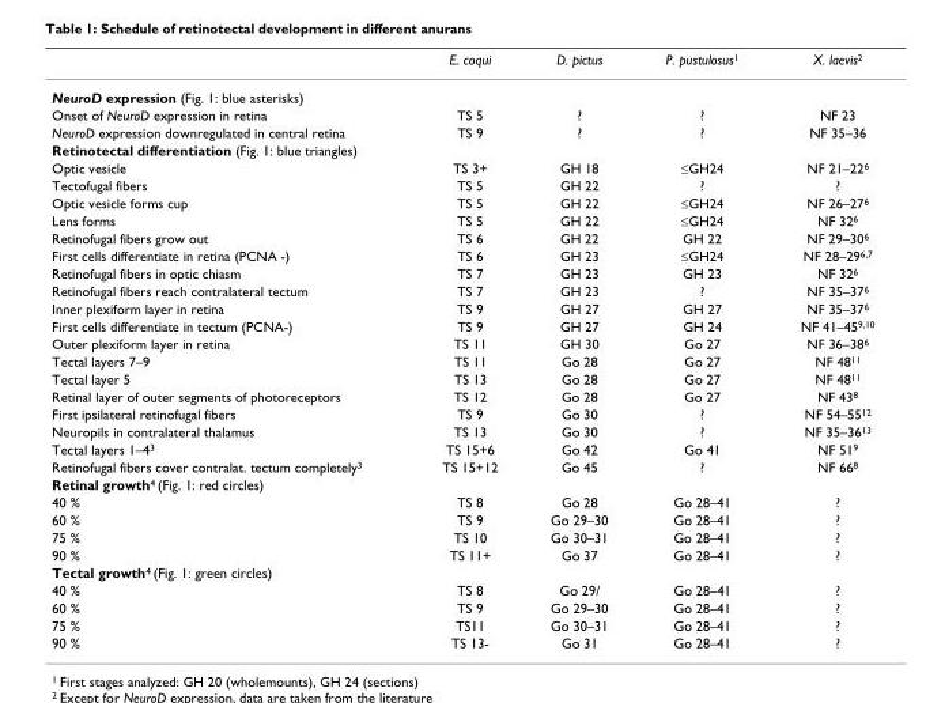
<table><thead><tr><td></td><td>E. coqui</td><td>D. pictus</td><td>P. pustulosus<sup>1</sup></td><td>X. laevis<sup>2</sup></td></tr></thead><tbody><tr><td colspan="5">NeuroD expression (Fig. 1: blue asterisks)</td></tr><tr><td>Onset of NeuroD expression in retina</td><td>TS 5</td><td>?</td><td>?</td><td>NF 23</td></tr><tr><td>NeuroD expression downregulated in central retina</td><td>TS 9</td><td>?</td><td>?</td><td>NF 35–36</td></tr><tr><td colspan="5">Retinotectal differentiation (Fig. 1: blue triangles)</td></tr><tr><td>Optic vesicle</td><td>TS 3+</td><td>GH 18</td><td>≤GH24</td><td>NF 21–22<sup>6</sup></td></tr><tr><td>Tectofugal fibers</td><td>TS 5</td><td>GH 22</td><td>?</td><td>?</td></tr><tr><td>Optic vesicle forms cup</td><td>TS 5</td><td>GH 22</td><td>≤GH24</td><td>NF 26–27<sup>6</sup></td></tr><tr><td>Lens forms</td><td>TS 5</td><td>GH 22</td><td>≤GH24</td><td>NF 32<sup>6</sup></td></tr><tr><td>Retinofugal fibers grow out</td><td>TS 6</td><td>GH 22</td><td>GH 22</td><td>NF 29–30<sup>6</sup></td></tr><tr><td>First cells differentiate in retina (PCNA -)</td><td>TS 6</td><td>GH 23</td><td>≤GH24</td><td>NF 28–29<sup>6,7</sup></td></tr><tr><td>Retinofugal fibers in optic chiasm</td><td>TS 7</td><td>GH 23</td><td>GH 23</td><td>NF 32<sup>6</sup></td></tr><tr><td>Retinofugal fibers reach contralateral tectum</td><td>TS 7</td><td>GH 23</td><td>?</td><td>NF 35–37<sup>6</sup></td></tr><tr><td>Inner plexiform layer in retina</td><td>TS 9</td><td>GH 27</td><td>GH 27</td><td>NF 35–37<sup>6</sup></td></tr><tr><td>First cells differentiate in tectum (PCNA-)</td><td>TS 9</td><td>GH 27</td><td>GH 24</td><td>NF 41–45<sup>9,10</sup></td></tr><tr><td>Outer plexiform layer in retina</td><td>TS 11</td><td>GH 30</td><td>Go 27</td><td>NF 36–38<sup>6</sup></td></tr><tr><td>Tectal layers 7–9</td><td>TS 11</td><td>Go 28</td><td>Go 27</td><td>NF 48<sup>11</sup></td></tr><tr><td>Tectal layer 5</td><td>TS 13</td><td>Go 28</td><td>Go 27</td><td>NF 48<sup>11</sup></td></tr><tr><td>Retinal layer of outer segments of photoreceptors</td><td>TS 12</td><td>Go 28</td><td>Go 27</td><td>NF 43<sup>8</sup></td></tr><tr><td>First ipsilateral retinofugal fibers</td><td>TS 9</td><td>Go 30</td><td>?</td><td>NF 54–55<sup>12</sup></td></tr><tr><td>Neuropils in contralateral thalamus</td><td>TS 13</td><td>Go 30</td><td>?</td><td>NF 35–36<sup>13</sup></td></tr><tr><td>Tectal layers 1–4<sup>3</sup></td><td>TS 15+6</td><td>Go 42</td><td>Go 41</td><td>NF 51<sup>9</sup></td></tr><tr><td>Retinofugal fibers cover contralat. tectum completely<sup>3</sup></td><td>TS 15+12</td><td>Go 45</td><td>?</td><td>NF 66<sup>8</sup></td></tr><tr><td colspan="5">Retinal growth<sup>4</sup> (Fig. 1: red circles)</td></tr><tr><td>40 %</td><td>TS 8</td><td>Go 28</td><td>Go 28–41</td><td>?</td></tr><tr><td>60 %</td><td>TS 9</td><td>Go 29–30</td><td>Go 28–41</td><td>?</td></tr><tr><td>75 %</td><td>TS 10</td><td>Go 30–31</td><td>Go 28–41</td><td>?</td></tr><tr><td>90 %</td><td>TS 11+</td><td>Go 37</td><td>Go 28–41</td><td>?</td></tr><tr><td colspan="5">Tectal growth<sup>4</sup> (Fig. 1: green circles)</td></tr><tr><td>40 %</td><td>TS 8</td><td>Go 29/</td><td>Go 28–41</td><td>?</td></tr><tr><td>60 %</td><td>TS 9</td><td>Go 29–30</td><td>Go 28–41</td><td>?</td></tr><tr><td>75 %</td><td>TS11</td><td>Go 30–31</td><td>Go 28–41</td><td>?</td></tr><tr><td>90 %</td><td>TS 13-</td><td>Go 31</td><td>Go 28–41</td><td>?</td></tr></tbody></table>